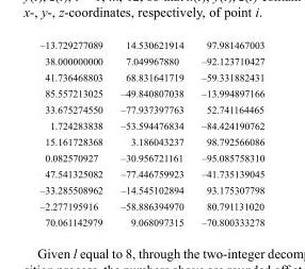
<table><tbody><tr><td>–13.729277089</td><td>14.530621914</td><td>97.981467003</td></tr><tr><td>38.000000000</td><td>7.049967880</td><td>–92.123710427</td></tr><tr><td>41.736468803</td><td>68.831641719</td><td>–59.331882431</td></tr><tr><td>85.557213025</td><td>–49.840807038</td><td>–13.994897166</td></tr><tr><td>33.675274550</td><td>–77.937397763</td><td>52.741164465</td></tr><tr><td>1.724283838</td><td>–53.594476834</td><td>–84.424190762</td></tr><tr><td>15.161728368</td><td>3.186043237</td><td>98.792566086</td></tr><tr><td>0.082570927</td><td>–30.956721161</td><td>–95.085758310</td></tr><tr><td>47.541325082</td><td>–77.446759923</td><td>–41.735139045</td></tr><tr><td>–33.285508962</td><td>–14.545102894</td><td>93.175307798</td></tr><tr><td>–2.277195916</td><td>–58.886394970</td><td>80.791131020</td></tr><tr><td>70.061142979</td><td>9.068097315</td><td>–70.800333278</td></tr></tbody></table>